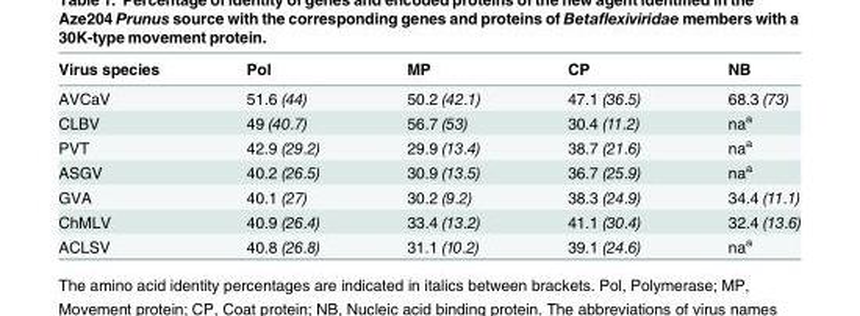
<table><thead><tr><td>Virus species</td><td>Pol</td><td>MP</td><td>CP</td><td>NB</td></tr></thead><tbody><tr><td>AVCaV</td><td>51.6 (44)</td><td>50.2 (42.1)</td><td>47.1 (36.5)</td><td>68.3 (73)</td></tr><tr><td>CLBV</td><td>49 (40.7)</td><td>56.7 (53)</td><td>30.4 (11.2)</td><td>na<sup>a</sup></td></tr><tr><td>PVT</td><td>42.9 (29.2)</td><td>29.9 (13.4)</td><td>38.7 (21.6)</td><td>na<sup>a</sup></td></tr><tr><td>ASGV</td><td>40.2 (26.5)</td><td>30.9 (13.5)</td><td>36.7 (25.9)</td><td>na<sup>a</sup></td></tr><tr><td>GVA</td><td>40.1 (27)</td><td>30.2 (9.2)</td><td>38.3 (24.9)</td><td>34.4 (11.1)</td></tr><tr><td>ChMLV</td><td>40.9 (26.4)</td><td>33.4 (13.2)</td><td>41.1 (30.4)</td><td>32.4 (13.6)</td></tr><tr><td>ACLSV</td><td>40.8 (26.8)</td><td>31.1 (10.2)</td><td>39.1 (24.6)</td><td>na<sup>a</sup></td></tr></tbody></table>